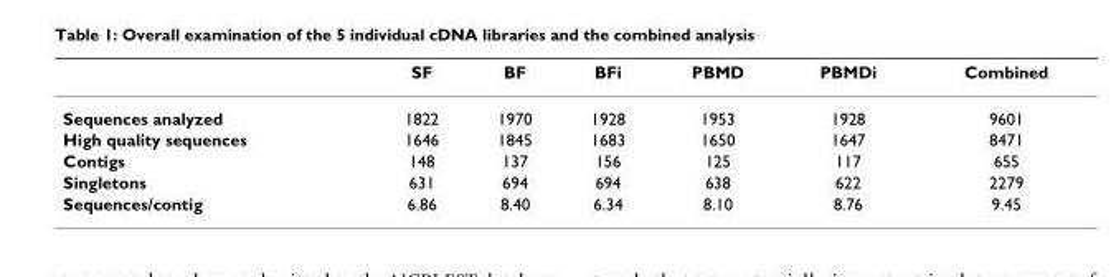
<table><thead><tr><td></td><td>SF</td><td>BF</td><td>BFi</td><td>PBMD</td><td>PBMDi</td><td>Combined</td></tr></thead><tbody><tr><td>Sequences analyzed</td><td>1822</td><td>1970</td><td>1928</td><td>1953</td><td>1928</td><td>9601</td></tr><tr><td>High quality sequences</td><td>1646</td><td>1845</td><td>1683</td><td>1650</td><td>1647</td><td>8471</td></tr><tr><td>Contigs</td><td>148</td><td>137</td><td>156</td><td>125</td><td>117</td><td>655</td></tr><tr><td>Singletons</td><td>631</td><td>694</td><td>694</td><td>638</td><td>622</td><td>2279</td></tr><tr><td>Sequences/contig</td><td>6.86</td><td>8.40</td><td>6.34</td><td>8.10</td><td>8.76</td><td>9.45</td></tr></tbody></table>